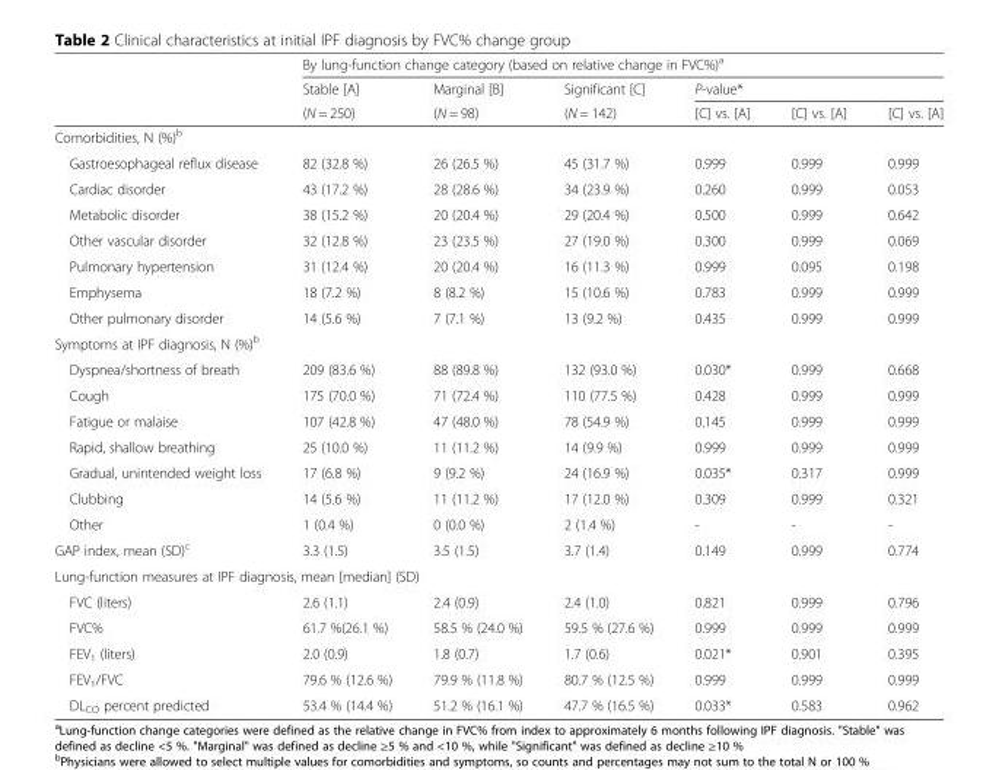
<table><thead><tr><td rowspan="3"></td><td colspan="6">By lung-function change category (based on relative change in FVC%)<sup>a</sup></td></tr><tr><td rowspan="2">Stable [A] (N = 250)</td><td rowspan="2">Marginal [B] (N = 98)</td><td rowspan="2">Significant [C] (N = 142)</td><td colspan="3">P-value*</td></tr><tr><td>[C] vs. [A]</td><td>[C] vs. [A]</td><td>[C] vs. [A]</td></tr></thead><tbody><tr><td colspan="7">Comorbidities, N (%)<sup>b</sup></td></tr><tr><td>Gastroesophageal reflux disease</td><td>82 (32.8 %)</td><td>26 (26.5 %)</td><td>45 (31.7 %)</td><td>0.999</td><td>0.999</td><td>0.999</td></tr><tr><td>Cardiac disorder</td><td>43 (17.2 %)</td><td>28 (28.6 %)</td><td>34 (23.9 %)</td><td>0.260</td><td>0.999</td><td>0.053</td></tr><tr><td>Metabolic disorder</td><td>38 (15.2 %)</td><td>20 (20.4 %)</td><td>29 (20.4 %)</td><td>0.500</td><td>0.999</td><td>0.642</td></tr><tr><td>Other vascular disorder</td><td>32 (12.8 %)</td><td>23 (23.5 %)</td><td>27 (19.0 %)</td><td>0.300</td><td>0.999</td><td>0.069</td></tr><tr><td>Pulmonary hypertension</td><td>31 (12.4 %)</td><td>20 (20.4 %)</td><td>16 (11.3 %)</td><td>0.999</td><td>0.095</td><td>0.198</td></tr><tr><td>Emphysema</td><td>18 (7.2 %)</td><td>8 (8.2 %)</td><td>15 (10.6 %)</td><td>0.783</td><td>0.999</td><td>0.999</td></tr><tr><td>Other pulmonary disorder</td><td>14 (5.6 %)</td><td>7 (7.1 %)</td><td>13 (9.2 %)</td><td>0.435</td><td>0.999</td><td>0.999</td></tr><tr><td colspan="7">Symptoms at IPF diagnosis, N (%)<sup>b</sup></td></tr><tr><td>Dyspnea/shortness of breath</td><td>209 (83.6 %)</td><td>88 (89.8 %)</td><td>132 (93.0 %)</td><td>0.030*</td><td>0.999</td><td>0.668</td></tr><tr><td>Cough</td><td>175 (70.0 %)</td><td>71 (72.4 %)</td><td>110 (77.5 %)</td><td>0.428</td><td>0.999</td><td>0.999</td></tr><tr><td>Fatigue or malaise</td><td>107 (42.8 %)</td><td>47 (48.0 %)</td><td>78 (54.9 %)</td><td>0.145</td><td>0.999</td><td>0.999</td></tr><tr><td>Rapid, shallow breathing</td><td>25 (10.0 %)</td><td>11 (11.2 %)</td><td>14 (9.9 %)</td><td>0.999</td><td>0.999</td><td>0.999</td></tr><tr><td>Gradual, unintended weight loss</td><td>17 (6.8 %)</td><td>9 (9.2 %)</td><td>24 (16.9 %)</td><td>0.035*</td><td>0.317</td><td>0.999</td></tr><tr><td>Clubbing</td><td>14 (5.6 %)</td><td>11 (11.2 %)</td><td>17 (12.0 %)</td><td>0.309</td><td>0.999</td><td>0.321</td></tr><tr><td>Other</td><td>1 (0.4 %)</td><td>0 (0.0 %)</td><td>2 (1.4 %)</td><td>-</td><td>-</td><td>-</td></tr><tr><td>GAP index, mean (SD)<sup>c</sup></td><td>3.3 (1.5)</td><td>3.5 (1.5)</td><td>3.7 (1.4)</td><td>0.149</td><td>0.999</td><td>0.774</td></tr><tr><td colspan="7">Lung-function measures at IPF diagnosis, mean [median] (SD)</td></tr><tr><td>FVC (liters)</td><td>2.6 (1.1)</td><td>2.4 (0.9)</td><td>2.4 (1.0)</td><td>0.821</td><td>0.999</td><td>0.796</td></tr><tr><td>FVC%</td><td>61.7 %(26.1 %)</td><td>58.5 % (24.0 %)</td><td>59.5 % (27.6 %)</td><td>0.999</td><td>0.999</td><td>0.999</td></tr><tr><td>FEV<sub>1</sub> (liters)</td><td>2.0 (0.9)</td><td>1.8 (0.7)</td><td>1.7 (0.6)</td><td>0.021*</td><td>0.901</td><td>0.395</td></tr><tr><td>FEV<sub>1</sub>/FVC</td><td>79.6 % (12.6 %)</td><td>79.9 % (11.8 %)</td><td>80.7 % (12.5 %)</td><td>0.999</td><td>0.999</td><td>0.999</td></tr><tr><td>DL<sub>CO</sub> percent predicted</td><td>53.4 % (14.4 %)</td><td>51.2 % (16.1 %)</td><td>47.7 % (16.5 %)</td><td>0.033*</td><td>0.583</td><td>0.962</td></tr></tbody></table>